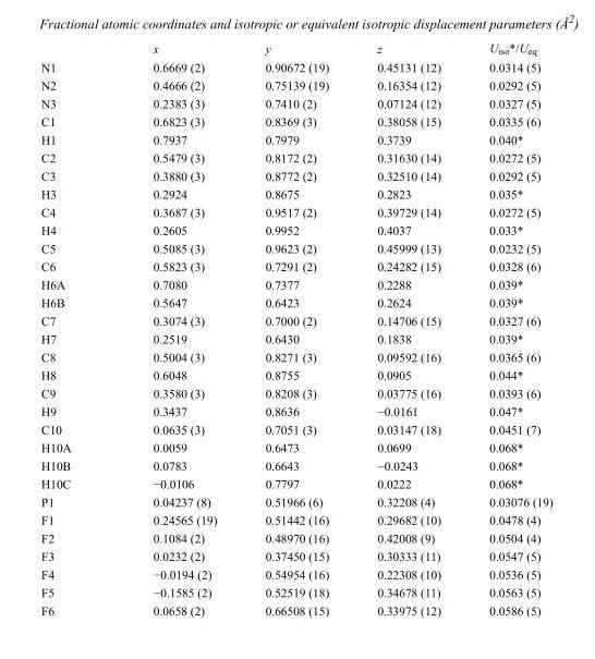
<table><thead><tr><td></td><td>x</td><td>y</td><td>z</td><td>U<sub>iso</sub>*/U<sub>eq</sub></td></tr></thead><tbody><tr><td>N1</td><td>0.6669 (2)</td><td>0.90672 (19)</td><td>0.45131 (12)</td><td>0.0314 (5)</td></tr><tr><td>N2</td><td>0.4666 (2)</td><td>0.75139 (19)</td><td>0.16354 (12)</td><td>0.0292 (5)</td></tr><tr><td>N3</td><td>0.2383 (3)</td><td>0.7410 (2)</td><td>0.07124 (12)</td><td>0.0327 (5)</td></tr><tr><td>C1</td><td>0.6823 (3)</td><td>0.8369 (3)</td><td>0.38058 (15)</td><td>0.0335 (6)</td></tr><tr><td>H1</td><td>0.7937</td><td>0.7979</td><td>0.3739</td><td>0.040*</td></tr><tr><td>C2</td><td>0.5479 (3)</td><td>0.8172 (2)</td><td>0.31630 (14)</td><td>0.0272 (5)</td></tr><tr><td>C3</td><td>0.3880 (3)</td><td>0.8772 (2)</td><td>0.32510 (14)</td><td>0.0292 (5)</td></tr><tr><td>H3</td><td>0.2924</td><td>0.8675</td><td>0.2823</td><td>0.035*</td></tr><tr><td>C4</td><td>0.3687 (3)</td><td>0.9517 (2)</td><td>0.39729 (14)</td><td>0.0272 (5)</td></tr><tr><td>H4</td><td>0.2605</td><td>0.9952</td><td>0.4037</td><td>0.033*</td></tr><tr><td>C5</td><td>0.5085 (3)</td><td>0.9623 (2)</td><td>0.45999 (13)</td><td>0.0232 (5)</td></tr><tr><td>C6</td><td>0.5823 (3)</td><td>0.7291 (2)</td><td>0.24282 (15)</td><td>0.0328 (6)</td></tr><tr><td>H6A</td><td>0.7080</td><td>0.7377</td><td>0.2288</td><td>0.039*</td></tr><tr><td>H6B</td><td>0.5647</td><td>0.6423</td><td>0.2624</td><td>0.039*</td></tr><tr><td>C7</td><td>0.3074 (3)</td><td>0.7000 (2)</td><td>0.14706 (15)</td><td>0.0327 (6)</td></tr><tr><td>H7</td><td>0.2519</td><td>0.6430</td><td>0.1838</td><td>0.039*</td></tr><tr><td>C8</td><td>0.5004 (3)</td><td>0.8271 (3)</td><td>0.09592 (16)</td><td>0.0365 (6)</td></tr><tr><td>H8</td><td>0.6048</td><td>0.8755</td><td>0.0905</td><td>0.044*</td></tr><tr><td>C9</td><td>0.3580 (3)</td><td>0.8208 (3)</td><td>0.03775 (16)</td><td>0.0393 (6)</td></tr><tr><td>H9</td><td>0.3437</td><td>0.8636</td><td>−0.0161</td><td>0.047*</td></tr><tr><td>C10</td><td>0.0635 (3)</td><td>0.7051 (3)</td><td>0.03147 (18)</td><td>0.0451 (7)</td></tr><tr><td>H10A</td><td>0.0059</td><td>0.6473</td><td>0.0699</td><td>0.068*</td></tr><tr><td>H10B</td><td>0.0783</td><td>0.6643</td><td>−0.0243</td><td>0.068*</td></tr><tr><td>H10C</td><td>−0.0106</td><td>0.7797</td><td>0.0222</td><td>0.068*</td></tr><tr><td>P1</td><td>0.04237 (8)</td><td>0.51966 (6)</td><td>0.32208 (4)</td><td>0.03076 (19)</td></tr><tr><td>F1</td><td>0.24565 (19)</td><td>0.51442 (16)</td><td>0.29682 (10)</td><td>0.0478 (4)</td></tr><tr><td>F2</td><td>0.1084 (2)</td><td>0.48970 (16)</td><td>0.42008 (9)</td><td>0.0504 (4)</td></tr><tr><td>F3</td><td>0.0232 (2)</td><td>0.37450 (15)</td><td>0.30333 (11)</td><td>0.0547 (5)</td></tr><tr><td>F4</td><td>−0.0194 (2)</td><td>0.54954 (16)</td><td>0.22308 (10)</td><td>0.0536 (5)</td></tr><tr><td>F5</td><td>−0.1585 (2)</td><td>0.52519 (18)</td><td>0.34678 (11)</td><td>0.0563 (5)</td></tr><tr><td>F6</td><td>0.0658 (2)</td><td>0.66508 (15)</td><td>0.33975 (12)</td><td>0.0586 (5)</td></tr></tbody></table>